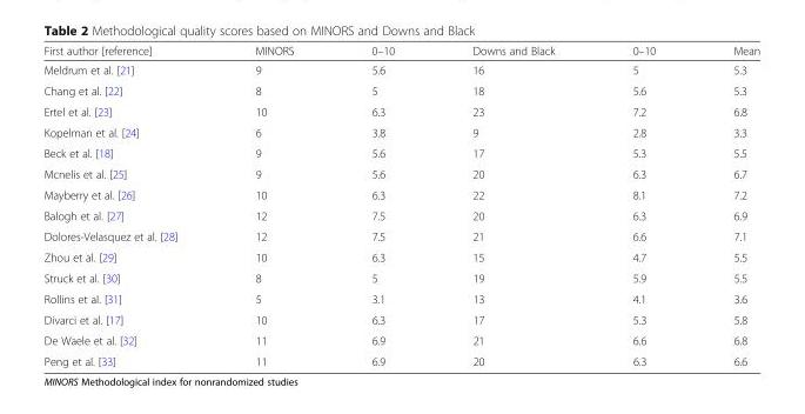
<table><thead><tr><td>First author [reference]</td><td>MINORS</td><td>0–10</td><td>Downs and Black</td><td>0–10</td><td>Mean</td></tr></thead><tbody><tr><td>Meldrum et al. [21]</td><td>9</td><td>5.6</td><td>16</td><td>5</td><td>5.3</td></tr><tr><td>Chang et al. [22]</td><td>8</td><td>5</td><td>18</td><td>5.6</td><td>5.3</td></tr><tr><td>Ertel et al. [23]</td><td>10</td><td>6.3</td><td>23</td><td>7.2</td><td>6.8</td></tr><tr><td>Kopelman et al. [24]</td><td>6</td><td>3.8</td><td>9</td><td>2.8</td><td>3.3</td></tr><tr><td>Beck et al. [18]</td><td>9</td><td>5.6</td><td>17</td><td>5.3</td><td>5.5</td></tr><tr><td>Mcnelis et al. [25]</td><td>9</td><td>5.6</td><td>20</td><td>6.3</td><td>6.7</td></tr><tr><td>Mayberry et al. [26]</td><td>10</td><td>6.3</td><td>22</td><td>8.1</td><td>7.2</td></tr><tr><td>Balogh et al. [27]</td><td>12</td><td>7.5</td><td>20</td><td>6.3</td><td>6.9</td></tr><tr><td>Dolores-Velasquez et al. [28]</td><td>12</td><td>7.5</td><td>21</td><td>6.6</td><td>7.1</td></tr><tr><td>Zhou et al. [29]</td><td>10</td><td>6.3</td><td>15</td><td>4.7</td><td>5.5</td></tr><tr><td>Struck et al. [30]</td><td>8</td><td>5</td><td>19</td><td>5.9</td><td>5.5</td></tr><tr><td>Rollins et al. [31]</td><td>5</td><td>3.1</td><td>13</td><td>4.1</td><td>3.6</td></tr><tr><td>Divarci et al. [17]</td><td>10</td><td>6.3</td><td>17</td><td>5.3</td><td>5.8</td></tr><tr><td>De Waele et al. [32]</td><td>11</td><td>6.9</td><td>21</td><td>6.6</td><td>6.8</td></tr><tr><td>Peng et al. [33]</td><td>11</td><td>6.9</td><td>20</td><td>6.3</td><td>6.6</td></tr></tbody></table>